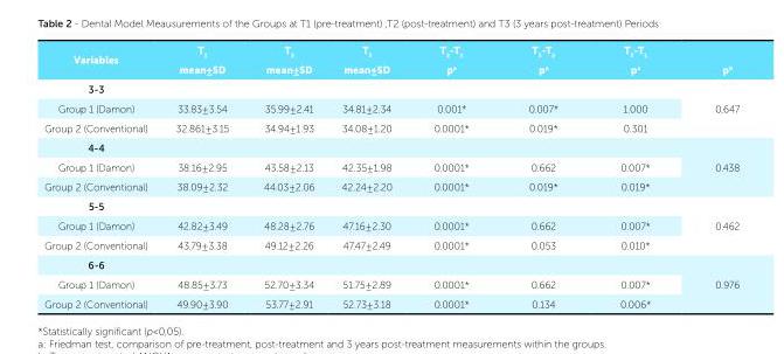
<table><tbody><tr><td rowspan="2">Variables</td><td>T<sub>1</sub></td><td>T<sub>2</sub></td><td>T<sub>3</sub></td><td>T<sub>2</sub>-T<sub>1</sub></td><td>T<sub>3</sub>-T<sub>2</sub></td><td>T<sub>3</sub>-T<sub>1</sub></td><td></td></tr><tr><td>mean±SD</td><td>mean±SD</td><td>mean±SD</td><td>p<sup>a</sup></td><td>p<sup>a</sup></td><td>p<sup>a</sup></td><td>p<sup>b</sup></td></tr><tr><td colspan="7">3-3</td><td rowspan="3">0,647</td></tr><tr><td>Group 1 (Damon)</td><td>33.83±3.54</td><td>35.99±2.41</td><td>34.81±2.34</td><td>0.001*</td><td>0.007*</td><td>1.000</td></tr><tr><td>Group 2 (Conventional)</td><td>32.861±3.15</td><td>34.94±1.93</td><td>34.08±1.20</td><td>0.0001*</td><td>0.019*</td><td>0.301</td></tr><tr><td colspan="7">4-4</td><td rowspan="3">0.438</td></tr><tr><td>Group 1 (Damon)</td><td>38.16±2.95</td><td>43.58±2.13</td><td>42.35±1.98</td><td>0.0001*</td><td>0.662</td><td>0.007*</td></tr><tr><td>Group 2 (Conventional)</td><td>38.09±2.32</td><td>44.03±2.06</td><td>42.24±2.20</td><td>0.0001*</td><td>0.019*</td><td>0.019*</td></tr><tr><td colspan="7">5-5</td><td rowspan="3">0.462</td></tr><tr><td>Group 1 (Damon)</td><td>42.82±3.49</td><td>48.28±2.76</td><td>47.16±2.30</td><td>0.0001*</td><td>0.662</td><td>0.007*</td></tr><tr><td>Group 2 (Conventional)</td><td>43.79±3.38</td><td>49.12±2.26</td><td>47.47±2.49</td><td>0.0001*</td><td>0.053</td><td>0.010*</td></tr><tr><td colspan="7">6-6</td><td rowspan="3">0.976</td></tr><tr><td>Group 1 (Damon)</td><td>48.85±3.73</td><td>52.70±3.34</td><td>51.75±2.89</td><td>0.0001*</td><td>0.662</td><td>0.007*</td></tr><tr><td>Group 2 (Conventional)</td><td>49.90±3.90</td><td>53.77±2.91</td><td>52.73±3.18</td><td>0.0001*</td><td>0.134</td><td>0.006*</td></tr></tbody></table>